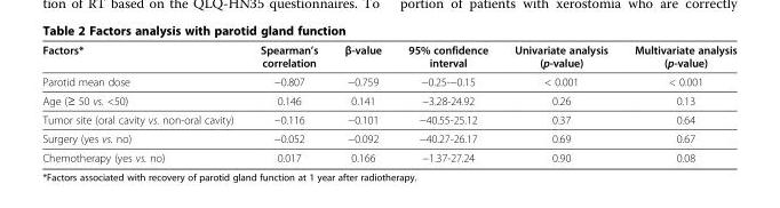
<table><thead><tr><td>Factors*</td><td>Spearman’s correlation</td><td>β-value</td><td>95% confidence interval</td><td>Univariate analysis (p-value)</td><td>Multivariate analysis (p-value)</td></tr></thead><tbody><tr><td>Parotid mean dose</td><td>−0.807</td><td>−0.759</td><td>−0.25-−0.15</td><td>&lt; 0.001</td><td>&lt; 0.001</td></tr><tr><td>Age (≥ 50 vs. &lt;50)</td><td>0.146</td><td>0.141</td><td>−3.28-24.92</td><td>0.26</td><td>0.13</td></tr><tr><td>Tumor site (oral cavity vs. non-oral cavity)</td><td>−0.116</td><td>−0.101</td><td>−40.55-25.12</td><td>0.37</td><td>0.64</td></tr><tr><td>Surgery (yes vs. no)</td><td>−0.052</td><td>−0.092</td><td>−40.27-26.17</td><td>0.69</td><td>0.67</td></tr><tr><td>Chemotherapy (yes vs. no)</td><td>0.017</td><td>0.166</td><td>−1.37-27.24</td><td>0.90</td><td>0.08</td></tr></tbody></table>